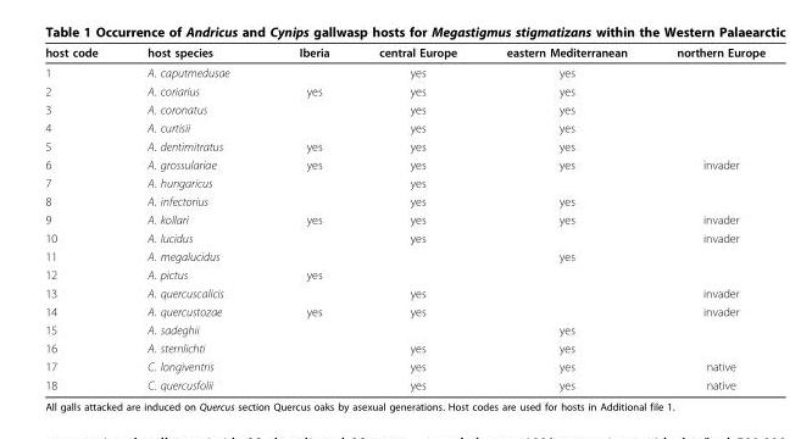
<table><thead><tr><td>host code</td><td>host species</td><td>Iberia</td><td>central Europe</td><td>eastern Mediterranean</td><td>northern Europe</td></tr></thead><tbody><tr><td>1</td><td>A. caputmedusae</td><td></td><td>yes</td><td>yes</td><td></td></tr><tr><td>2</td><td>A. coriarius</td><td>yes</td><td>yes</td><td>yes</td><td></td></tr><tr><td>3</td><td>A. coronatus</td><td></td><td>yes</td><td>yes</td><td></td></tr><tr><td>4</td><td>A. curtisii</td><td></td><td>yes</td><td>yes</td><td></td></tr><tr><td>5</td><td>A. dentimitratus</td><td>yes</td><td>yes</td><td>yes</td><td></td></tr><tr><td>6</td><td>A. grossulariae</td><td>yes</td><td>yes</td><td>yes</td><td>invader</td></tr><tr><td>7</td><td>A. hungaricus</td><td></td><td>yes</td><td></td><td></td></tr><tr><td>8</td><td>A. infectorius</td><td></td><td>yes</td><td>yes</td><td></td></tr><tr><td>9</td><td>A. kollari</td><td>yes</td><td>yes</td><td>yes</td><td>invader</td></tr><tr><td>10</td><td>A. lucidus</td><td></td><td>yes</td><td></td><td>invader</td></tr><tr><td>11</td><td>A. megalucidus</td><td></td><td></td><td>yes</td><td></td></tr><tr><td>12</td><td>A. pictus</td><td>yes</td><td></td><td></td><td></td></tr><tr><td>13</td><td>A. quercuscalicis</td><td></td><td>yes</td><td></td><td>invader</td></tr><tr><td>14</td><td>A. quercustozae</td><td>yes</td><td>yes</td><td></td><td>invader</td></tr><tr><td>15</td><td>A. sadeghii</td><td></td><td></td><td>yes</td><td></td></tr><tr><td>16</td><td>A. sternlichti</td><td></td><td>yes</td><td>yes</td><td></td></tr><tr><td>17</td><td>C. longiventris</td><td></td><td>yes</td><td>yes</td><td>native</td></tr><tr><td>18</td><td>C. quercusfolii</td><td></td><td>yes</td><td>yes</td><td>native</td></tr></tbody></table>